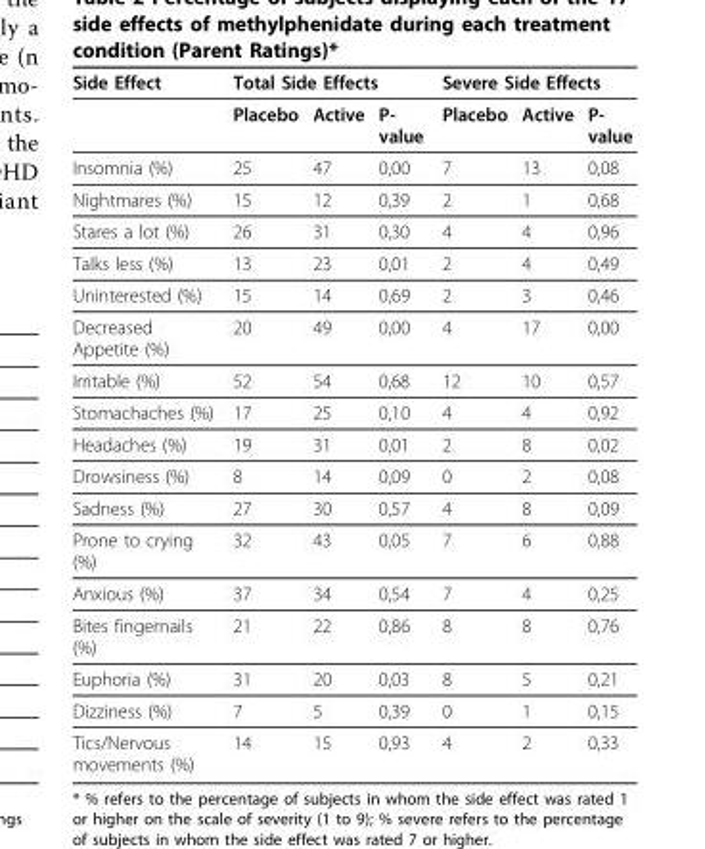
<table><thead><tr><td rowspan="2">Side Effect</td><td colspan="3">Total Side Effects</td><td colspan="3">Severe Side Effects</td></tr><tr><td>Placebo</td><td>Active</td><td>P- value</td><td>Placebo</td><td>Active</td><td>P- value</td></tr></thead><tbody><tr><td>Insomnia (%)</td><td>25</td><td>47</td><td>0,00</td><td>7</td><td>13</td><td>0,08</td></tr><tr><td>Nightmares (%)</td><td>15</td><td>12</td><td>0,39</td><td>2</td><td>1</td><td>0,68</td></tr><tr><td>Stares a lot (%)</td><td>26</td><td>31</td><td>0,30</td><td>4</td><td>4</td><td>0,96</td></tr><tr><td>Talks less (%)</td><td>13</td><td>23</td><td>0,01</td><td>2</td><td>4</td><td>0,49</td></tr><tr><td>Uninterested (%)</td><td>15</td><td>14</td><td>0,69</td><td>2</td><td>3</td><td>0,46</td></tr><tr><td>Decreased Appetite (%)</td><td>20</td><td>49</td><td>0,00</td><td>4</td><td>17</td><td>0,00</td></tr><tr><td>Irritable (%)</td><td>52</td><td>54</td><td>0,68</td><td>12</td><td>10</td><td>0,57</td></tr><tr><td>Stomachaches (%)</td><td>17</td><td>25</td><td>0,10</td><td>4</td><td>4</td><td>0,92</td></tr><tr><td>Headaches (%)</td><td>19</td><td>31</td><td>0,01</td><td>2</td><td>8</td><td>0,02</td></tr><tr><td>Drowsiness (%)</td><td>8</td><td>14</td><td>0,09</td><td>0</td><td>2</td><td>0,08</td></tr><tr><td>Sadness (%)</td><td>27</td><td>30</td><td>0,57</td><td>4</td><td>8</td><td>0,09</td></tr><tr><td>Prone to crying (%)</td><td>32</td><td>43</td><td>0,05</td><td>7</td><td>6</td><td>0,88</td></tr><tr><td>Anxious (%)</td><td>37</td><td>34</td><td>0,54</td><td>7</td><td>4</td><td>0,25</td></tr><tr><td>Bites fingernails (%)</td><td>21</td><td>22</td><td>0,86</td><td>8</td><td>8</td><td>0,76</td></tr><tr><td>Euphoria (%)</td><td>31</td><td>20</td><td>0,03</td><td>8</td><td>5</td><td>0,21</td></tr><tr><td>Dizziness (%)</td><td>7</td><td>5</td><td>0,39</td><td>0</td><td>1</td><td>0,15</td></tr><tr><td>Tics/Nervous movements (%)</td><td>14</td><td>15</td><td>0,93</td><td>4</td><td>2</td><td>0,33</td></tr></tbody></table>